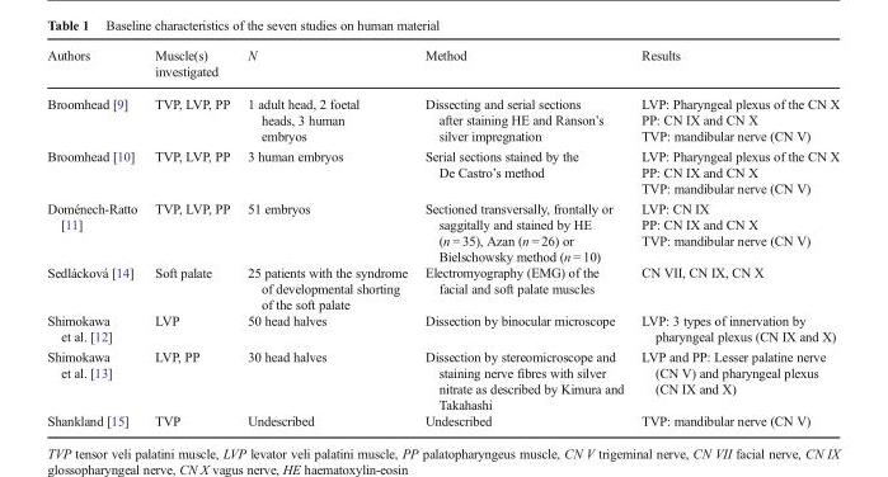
<table><thead><tr><td>Authors</td><td>Muscle(s) investigated</td><td>N</td><td>Method</td><td>Results</td></tr></thead><tbody><tr><td>Broomhead [9]</td><td>TVP, LVP, PP</td><td>1 adult head, 2 foetal heads, 3 human embryos</td><td>Dissecting and serial sections after staining HE and Ranson’s silver impregnation</td><td>LVP: Pharyngeal plexus of the CN X PP: CN IX and CN X TVP: mandibular nerve (CN V)</td></tr><tr><td>Broomhead [10]</td><td>TVP, LVP, PP</td><td>3 human embryos</td><td>Serial sections stained by the De Castro’s method</td><td>LVP: Pharyngeal plexus of the CN X PP: CN IX and CN X TVP: mandibular nerve (CN V)</td></tr><tr><td>Doménech-Ratto [11]</td><td>TVP, LVP, PP</td><td>51 embryos</td><td>Sectioned transversally, frontally or saggitally and stained by HE (n = 35), Azan (n = 26) or Bielschowsky method (n = 10)</td><td>LVP: CN IX PP: CN IX and CN X TVP: mandibular nerve (CN V)</td></tr><tr><td>Sedlácková [14]</td><td>Soft palate</td><td>25 patients with the syndrome of developmental shorting of the soft palate</td><td>Electromyography (EMG) of the facial and soft palate muscles</td><td>CN VII, CN IX, CN X</td></tr><tr><td>Shimokawa et al. [12]</td><td>LVP</td><td>50 head halves</td><td>Dissection by binocular microscope</td><td>LVP: 3 types of innervation by pharyngeal plexus (CN IX and X)</td></tr><tr><td>Shimokawa et al. [13]</td><td>LVP, PP</td><td>30 head halves</td><td>Dissection by stereomicroscope and staining nerve fibres with silver nitrate as described by Kimura and Takahashi</td><td>LVP and PP: Lesser palatine nerve (CN V) and pharyngeal plexus (CN IX and X)</td></tr><tr><td>Shankland [15]</td><td>TVP</td><td>Undescribed</td><td>Undescribed</td><td>TVP: mandibular nerve (CN V)</td></tr></tbody></table>